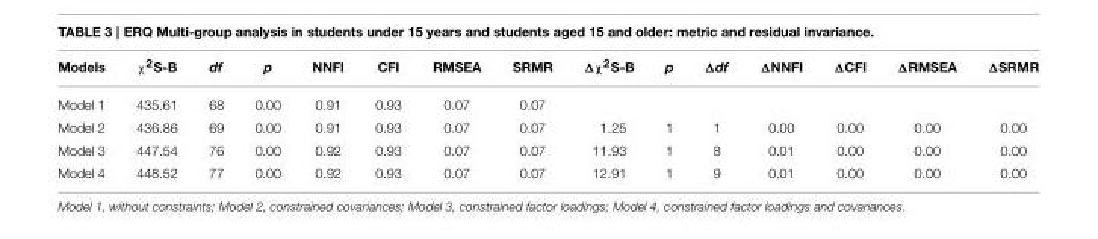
<table><thead><tr><td>Models</td><td>χ<sup>2</sup>S-B</td><td>df</td><td>p</td><td>NNFI</td><td>CFI</td><td>RMSEA</td><td>SRMR</td><td>Δχ<sup>2</sup>S-B</td><td>p</td><td>Δdf</td><td>ΔNNFI</td><td>ΔCFI</td><td>ΔRMSEA</td><td>ΔSRMR</td></tr></thead><tbody><tr><td>Model 1</td><td>435.61</td><td>68</td><td>0.00</td><td>0.91</td><td>0.93</td><td>0.07</td><td>0.07</td><td></td><td></td><td></td><td></td><td></td><td></td><td></td></tr><tr><td>Model 2</td><td>436.86</td><td>69</td><td>0.00</td><td>0.91</td><td>0.93</td><td>0.07</td><td>0.07</td><td>1.25</td><td>1</td><td>1</td><td>0.00</td><td>0.00</td><td>0.00</td><td>0.00</td></tr><tr><td>Model 3</td><td>447.54</td><td>76</td><td>0.00</td><td>0.92</td><td>0.93</td><td>0.07</td><td>0.07</td><td>11.93</td><td>1</td><td>8</td><td>0.01</td><td>0.00</td><td>0.00</td><td>0.00</td></tr><tr><td>Model 4</td><td>448.52</td><td>77</td><td>0.00</td><td>0.92</td><td>0.93</td><td>0.07</td><td>0.07</td><td>12.91</td><td>1</td><td>9</td><td>0.01</td><td>0.00</td><td>0.00</td><td>0.00</td></tr></tbody></table>